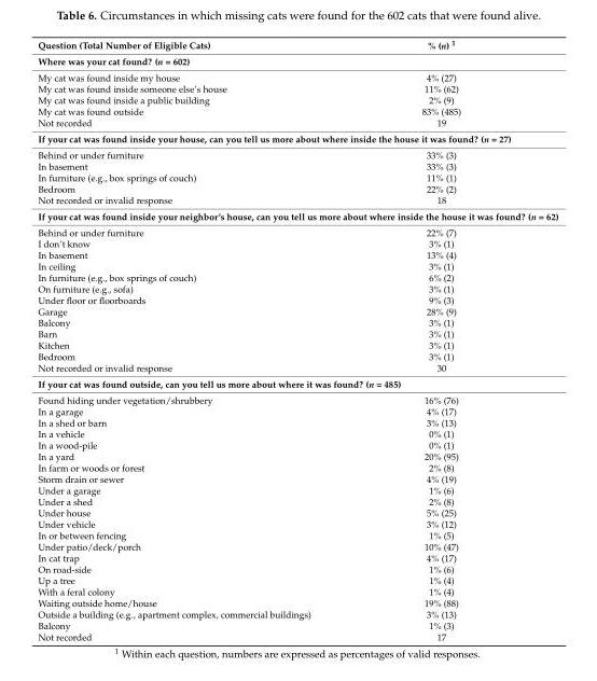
<table><thead><tr><td>Question (Total Number of Eligible Cats)</td><td>% (n) <sup>1</sup></td></tr></thead><tbody><tr><td colspan="2">Where was your cat found? (n = 602)</td></tr><tr><td>My cat was found inside my house</td><td>4% (27)</td></tr><tr><td>My cat was found inside someone else’s house</td><td>11% (62)</td></tr><tr><td>My cat was found inside a public building</td><td>2% (9)</td></tr><tr><td>My cat was found outside</td><td>83% (485)</td></tr><tr><td>Not recorded</td><td>19</td></tr><tr><td colspan="2">If your cat was found inside your house, can you tell us more about where inside the house it was found? (n = 27)</td></tr><tr><td>Behind or under furniture</td><td>33% (3)</td></tr><tr><td>In basement</td><td>33% (3)</td></tr><tr><td>In furniture (e.g., box springs of couch)</td><td>11% (1)</td></tr><tr><td>Bedroom</td><td>22% (2)</td></tr><tr><td>Not recorded or invalid response</td><td>18</td></tr><tr><td colspan="2">If your cat was found inside your neighbor’s house, can you tell us more about where inside the house it was found? (n = 62)</td></tr><tr><td>Behind or under furniture</td><td>22% (7)</td></tr><tr><td>I don’t know</td><td>3% (1)</td></tr><tr><td>In basement</td><td>13% (4)</td></tr><tr><td>In ceiling</td><td>3% (1)</td></tr><tr><td>In furniture (e.g., box springs of couch)</td><td>6% (2)</td></tr><tr><td>On furniture (e.g., sofa)</td><td>3% (1)</td></tr><tr><td>Under floor or floorboards</td><td>9% (3)</td></tr><tr><td>Garage</td><td>28% (9)</td></tr><tr><td>Balcony</td><td>3% (1)</td></tr><tr><td>Barn</td><td>3% (1)</td></tr><tr><td>Kitchen</td><td>3% (1)</td></tr><tr><td>Bedroom</td><td>3% (1)</td></tr><tr><td>Not recorded or invalid response</td><td>30</td></tr><tr><td colspan="2">If your cat was found outside, can you tell us more about where it was found? (n = 485)</td></tr><tr><td>Found hiding under vegetation/shrubbery</td><td>16% (76)</td></tr><tr><td>In a garage</td><td>4% (17)</td></tr><tr><td>In a shed or barn</td><td>3% (13)</td></tr><tr><td>In a vehicle</td><td>0% (1)</td></tr><tr><td>In a wood-pile</td><td>0% (1)</td></tr><tr><td>In a yard</td><td>20% (95)</td></tr><tr><td>In farm or woods or forest</td><td>2% (8)</td></tr><tr><td>Storm drain or sewer</td><td>4% (19)</td></tr><tr><td>Under a garage</td><td>1% (6)</td></tr><tr><td>Under a shed</td><td>2% (8)</td></tr><tr><td>Under house</td><td>5% (25)</td></tr><tr><td>Under vehicle</td><td>3% (12)</td></tr><tr><td>In or between fencing</td><td>1% (5)</td></tr><tr><td>Under patio/deck/porch</td><td>10% (47)</td></tr><tr><td>In cat trap</td><td>4% (17)</td></tr><tr><td>On road-side</td><td>1% (6)</td></tr><tr><td>Up a tree</td><td>1% (4)</td></tr><tr><td>With a feral colony</td><td>1% (4)</td></tr><tr><td>Waiting outside home/house</td><td>19% (88)</td></tr><tr><td>Outside a building (e.g., apartment complex, commercial buildings)</td><td>3% (13)</td></tr><tr><td>Balcony</td><td>1% (3)</td></tr><tr><td>Not recorded</td><td>17</td></tr></tbody></table>